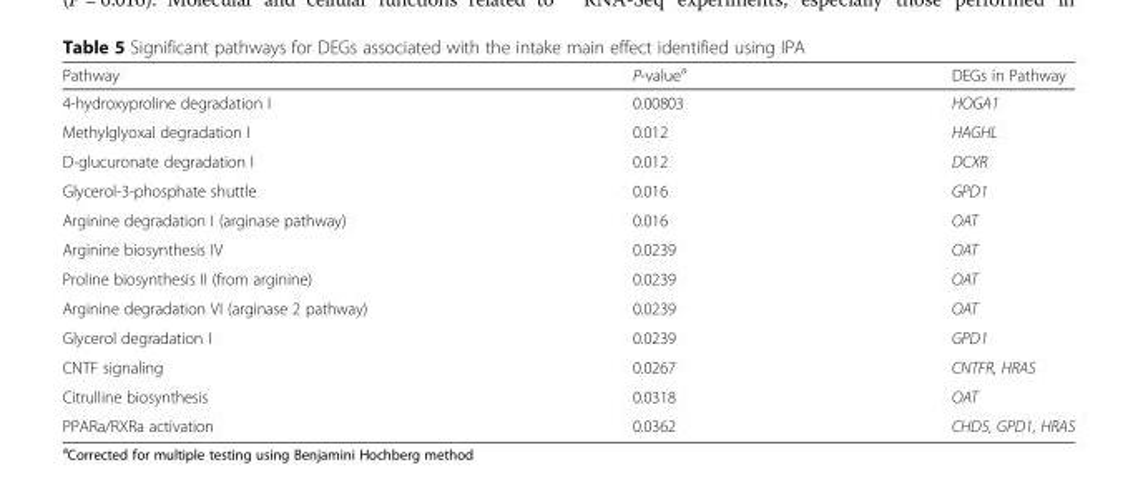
<table><thead><tr><td>Pathway</td><td>P-value<sup>a</sup></td><td>DEGs in Pathway</td></tr></thead><tbody><tr><td>4-hydroxyproline degradation I</td><td>0.00803</td><td>HOGA1</td></tr><tr><td>Methylglyoxal degradation I</td><td>0.012</td><td>HAGHL</td></tr><tr><td>D-glucuronate degradation I</td><td>0.012</td><td>DCXR</td></tr><tr><td>Glycerol-3-phosphate shuttle</td><td>0.016</td><td>GPD1</td></tr><tr><td>Arginine degradation I (arginase pathway)</td><td>0.016</td><td>OAT</td></tr><tr><td>Arginine biosynthesis IV</td><td>0.0239</td><td>OAT</td></tr><tr><td>Proline biosynthesis II (from arginine)</td><td>0.0239</td><td>OAT</td></tr><tr><td>Arginine degradation VI (arginase 2 pathway)</td><td>0.0239</td><td>OAT</td></tr><tr><td>Glycerol degradation I</td><td>0.0239</td><td>GPD1</td></tr><tr><td>CNTF signaling</td><td>0.0267</td><td>CNTFR, HRAS</td></tr><tr><td>Citrulline biosynthesis</td><td>0.0318</td><td>OAT</td></tr><tr><td>PPARa/RXRa activation</td><td>0.0362</td><td>CHD5, GPD1, HRAS</td></tr></tbody></table>